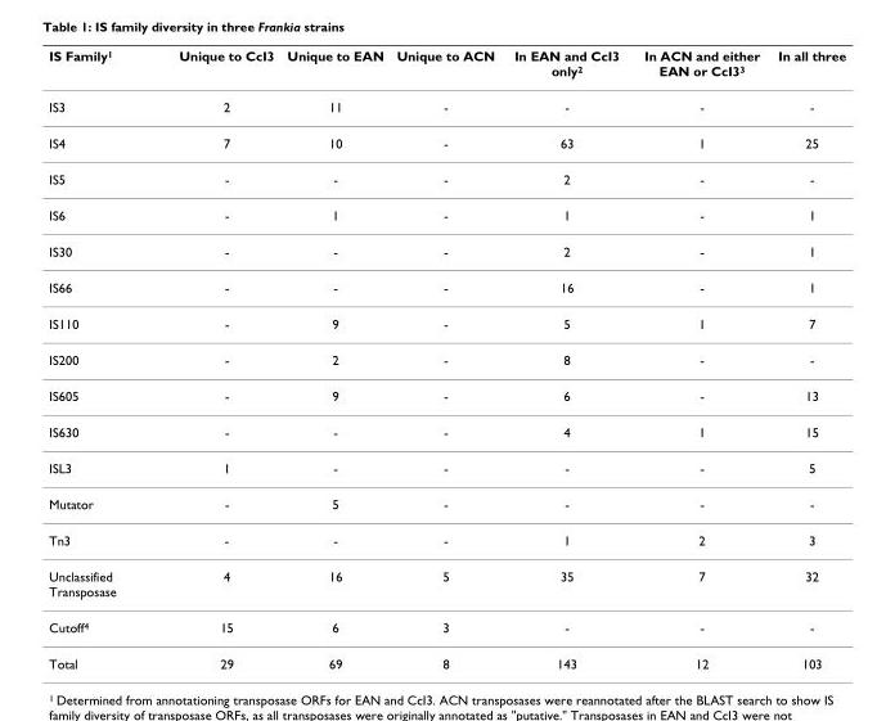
<table><thead><tr><td>IS Family<sup>1</sup></td><td>Unique to CcI3</td><td>Unique to EAN</td><td>Unique to ACN</td><td>In EAN and CcI3 only<sup>2</sup></td><td>In ACN and either EAN or CcI3<sup>3</sup></td><td>In all three</td></tr></thead><tbody><tr><td>IS3</td><td>2</td><td>11</td><td>-</td><td>-</td><td>-</td><td>-</td></tr><tr><td>IS4</td><td>7</td><td>10</td><td>-</td><td>63</td><td>1</td><td>25</td></tr><tr><td>IS5</td><td>-</td><td>-</td><td>-</td><td>2</td><td>-</td><td>-</td></tr><tr><td>IS6</td><td>-</td><td>1</td><td>-</td><td>1</td><td>-</td><td>1</td></tr><tr><td>IS30</td><td>-</td><td>-</td><td>-</td><td>2</td><td>-</td><td>1</td></tr><tr><td>IS66</td><td>-</td><td>-</td><td>-</td><td>16</td><td>-</td><td>1</td></tr><tr><td>IS110</td><td>-</td><td>9</td><td>-</td><td>5</td><td>1</td><td>7</td></tr><tr><td>IS200</td><td>-</td><td>2</td><td>-</td><td>8</td><td>-</td><td>-</td></tr><tr><td>IS605</td><td>-</td><td>9</td><td>-</td><td>6</td><td>-</td><td>13</td></tr><tr><td>IS630</td><td>-</td><td>-</td><td>-</td><td>4</td><td>1</td><td>15</td></tr><tr><td>ISL3</td><td>1</td><td>-</td><td>-</td><td>-</td><td>-</td><td>5</td></tr><tr><td>Mutator</td><td>-</td><td>5</td><td>-</td><td>-</td><td>-</td><td>-</td></tr><tr><td>Tn3</td><td>-</td><td>-</td><td>-</td><td>1</td><td>2</td><td>3</td></tr><tr><td>Unclassified Transposase</td><td>4</td><td>16</td><td>5</td><td>35</td><td>7</td><td>32</td></tr><tr><td>Cutoff<sup>4</sup></td><td>15</td><td>6</td><td>3</td><td>-</td><td>-</td><td>-</td></tr><tr><td>Total</td><td>29</td><td>69</td><td>8</td><td>143</td><td>12</td><td>103</td></tr></tbody></table>